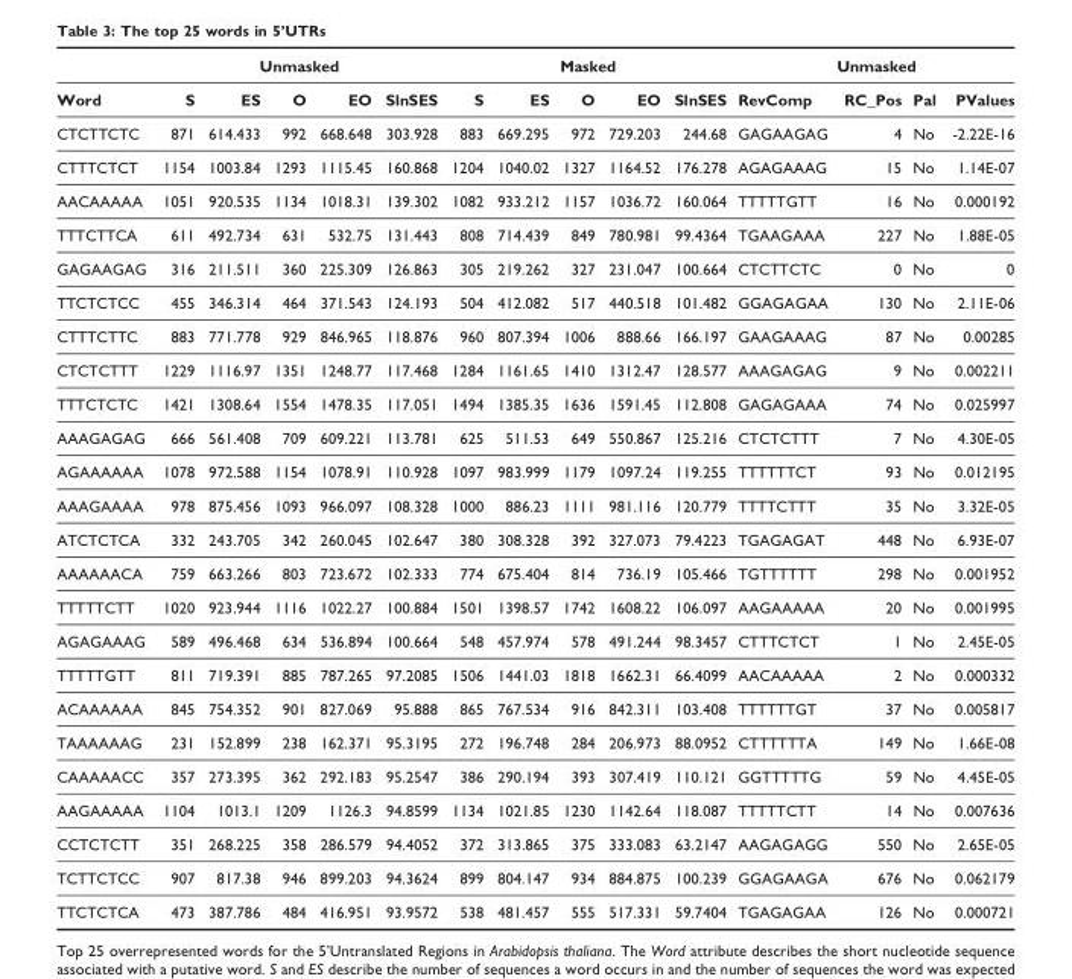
<table><thead><tr><td rowspan="2">Word</td><td colspan="5">Unmasked</td><td colspan="5">Masked</td><td colspan="4">Unmasked</td></tr><tr><td>S</td><td>ES</td><td>O</td><td>EO</td><td>SlnSES</td><td>S</td><td>ES</td><td>O</td><td>EO</td><td>SlnSES</td><td>RevComp</td><td>RC_Pos</td><td>Pal</td><td>PValues</td></tr></thead><tbody><tr><td>CTCTTCTC</td><td>871</td><td>614.433</td><td>992</td><td>668.648</td><td>303.928</td><td>883</td><td>669.295</td><td>972</td><td>729.203</td><td>244.68</td><td>GAGAAGAG</td><td>4</td><td>No</td><td>-2.22E-16</td></tr><tr><td>CTTTCTCT</td><td>1154</td><td>1003.84</td><td>1293</td><td>1115.45</td><td>160.868</td><td>1204</td><td>1040.02</td><td>1327</td><td>1164.52</td><td>176.278</td><td>AGAGAAAG</td><td>15</td><td>No</td><td>1.14E-07</td></tr><tr><td>AACAAAAA</td><td>1051</td><td>920.535</td><td>1134</td><td>1018.31</td><td>139.302</td><td>1082</td><td>933.212</td><td>1157</td><td>1036.72</td><td>160.064</td><td>TTTTTGTT</td><td>16</td><td>No</td><td>0.000192</td></tr><tr><td>TTTCTTCA</td><td>611</td><td>492.734</td><td>631</td><td>532.75</td><td>131.443</td><td>808</td><td>714.439</td><td>849</td><td>780.981</td><td>99.4364</td><td>TGAAGAAA</td><td>227</td><td>No</td><td>1.88E-05</td></tr><tr><td>GAGAAGAG</td><td>316</td><td>211.511</td><td>360</td><td>225.309</td><td>126.863</td><td>305</td><td>219.262</td><td>327</td><td>231.047</td><td>100.664</td><td>CTCTTCTC</td><td>0</td><td>No</td><td>0</td></tr><tr><td>TTCTCTCC</td><td>455</td><td>346.314</td><td>464</td><td>371.543</td><td>124.193</td><td>504</td><td>412.082</td><td>517</td><td>440.518</td><td>101.482</td><td>GGAGAGAA</td><td>130</td><td>No</td><td>2.11E-06</td></tr><tr><td>CTTTCTTC</td><td>883</td><td>771.778</td><td>929</td><td>846.965</td><td>118.876</td><td>960</td><td>807.394</td><td>1006</td><td>888.66</td><td>166.197</td><td>GAAGAAAG</td><td>87</td><td>No</td><td>0.00285</td></tr><tr><td>CTCTCTTT</td><td>1229</td><td>1116.97</td><td>1351</td><td>1248.77</td><td>117.468</td><td>1284</td><td>1161.65</td><td>1410</td><td>1312.47</td><td>128.577</td><td>AAAGAGAG</td><td>9</td><td>No</td><td>0.002211</td></tr><tr><td>TTTCTCTC</td><td>1421</td><td>1308.64</td><td>1554</td><td>1478.35</td><td>117.051</td><td>1494</td><td>1385.35</td><td>1636</td><td>1591.45</td><td>112.808</td><td>GAGAGAAA</td><td>74</td><td>No</td><td>0.025997</td></tr><tr><td>AAAGAGAG</td><td>666</td><td>561.408</td><td>709</td><td>609.221</td><td>113.781</td><td>625</td><td>511.53</td><td>649</td><td>550.867</td><td>125.216</td><td>CTCTCTTT</td><td>7</td><td>No</td><td>4.30E-05</td></tr><tr><td>AGAAAAAA</td><td>1078</td><td>972.588</td><td>1154</td><td>1078.91</td><td>110.928</td><td>1097</td><td>983.999</td><td>1179</td><td>1097.24</td><td>119.255</td><td>TTTTTTCT</td><td>93</td><td>No</td><td>0.012195</td></tr><tr><td>AAAGAAAA</td><td>978</td><td>875.456</td><td>1093</td><td>966.097</td><td>108.328</td><td>1000</td><td>886.23</td><td>1111</td><td>981.116</td><td>120.779</td><td>TTTTCTTT</td><td>35</td><td>No</td><td>3.32E-05</td></tr><tr><td>ATCTCTCA</td><td>332</td><td>243.705</td><td>342</td><td>260.045</td><td>102.647</td><td>380</td><td>308.328</td><td>392</td><td>327.073</td><td>79.4223</td><td>TGAGAGAT</td><td>448</td><td>No</td><td>6.93E-07</td></tr><tr><td>AAAAAACA</td><td>759</td><td>663.266</td><td>803</td><td>723.672</td><td>102.333</td><td>774</td><td>675.404</td><td>814</td><td>736.19</td><td>105.466</td><td>TGTTTTTT</td><td>298</td><td>No</td><td>0.001952</td></tr><tr><td>TTTTTCTT</td><td>1020</td><td>923.944</td><td>1116</td><td>1022.27</td><td>100.884</td><td>1501</td><td>1398.57</td><td>1742</td><td>1608.22</td><td>106.097</td><td>AAGAAAAA</td><td>20</td><td>No</td><td>0.001995</td></tr><tr><td>AGAGAAAG</td><td>589</td><td>496.468</td><td>634</td><td>536.894</td><td>100.664</td><td>548</td><td>457.974</td><td>578</td><td>491.244</td><td>98.3457</td><td>CTTTCTCT</td><td>1</td><td>No</td><td>2.45E-05</td></tr><tr><td>TTTTTGTT</td><td>811</td><td>719.391</td><td>885</td><td>787.265</td><td>97.2085</td><td>1506</td><td>1441.03</td><td>1818</td><td>1662.31</td><td>66.4099</td><td>AACAAAAA</td><td>2</td><td>No</td><td>0.000332</td></tr><tr><td>ACAAAAAA</td><td>845</td><td>754.352</td><td>901</td><td>827.069</td><td>95.888</td><td>865</td><td>767.534</td><td>916</td><td>842.311</td><td>103.408</td><td>TTTTTTGT</td><td>37</td><td>No</td><td>0.005817</td></tr><tr><td>TAAAAAAG</td><td>231</td><td>152.899</td><td>238</td><td>162.371</td><td>95.3195</td><td>272</td><td>196.748</td><td>284</td><td>206.973</td><td>88.0952</td><td>CTTTTTTA</td><td>149</td><td>No</td><td>1.66E-08</td></tr><tr><td>CAAAAACC</td><td>357</td><td>273.395</td><td>362</td><td>292.183</td><td>95.2547</td><td>386</td><td>290.194</td><td>393</td><td>307.419</td><td>110.121</td><td>GGTTTTTG</td><td>59</td><td>No</td><td>4.45E-05</td></tr><tr><td>AAGAAAAA</td><td>1104</td><td>1013.1</td><td>1209</td><td>1126.3</td><td>94.8599</td><td>1134</td><td>1021.85</td><td>1230</td><td>1142.64</td><td>118.087</td><td>TTTTTCTT</td><td>14</td><td>No</td><td>0.007636</td></tr><tr><td>CCTCTCTT</td><td>351</td><td>268.225</td><td>358</td><td>286.579</td><td>94.4052</td><td>372</td><td>313.865</td><td>375</td><td>333.083</td><td>63.2147</td><td>AAGAGAGG</td><td>550</td><td>No</td><td>2.65E-05</td></tr><tr><td>TCTTCTCC</td><td>907</td><td>817.38</td><td>946</td><td>899.203</td><td>94.3624</td><td>899</td><td>804.147</td><td>934</td><td>884.875</td><td>100.239</td><td>GGAGAAGA</td><td>676</td><td>No</td><td>0.062179</td></tr><tr><td>TTCTCTCA</td><td>473</td><td>387.786</td><td>484</td><td>416.951</td><td>93.9572</td><td>538</td><td>481.457</td><td>555</td><td>517.331</td><td>59.7404</td><td>TGAGAGAA</td><td>126</td><td>No</td><td>0.000721</td></tr></tbody></table>